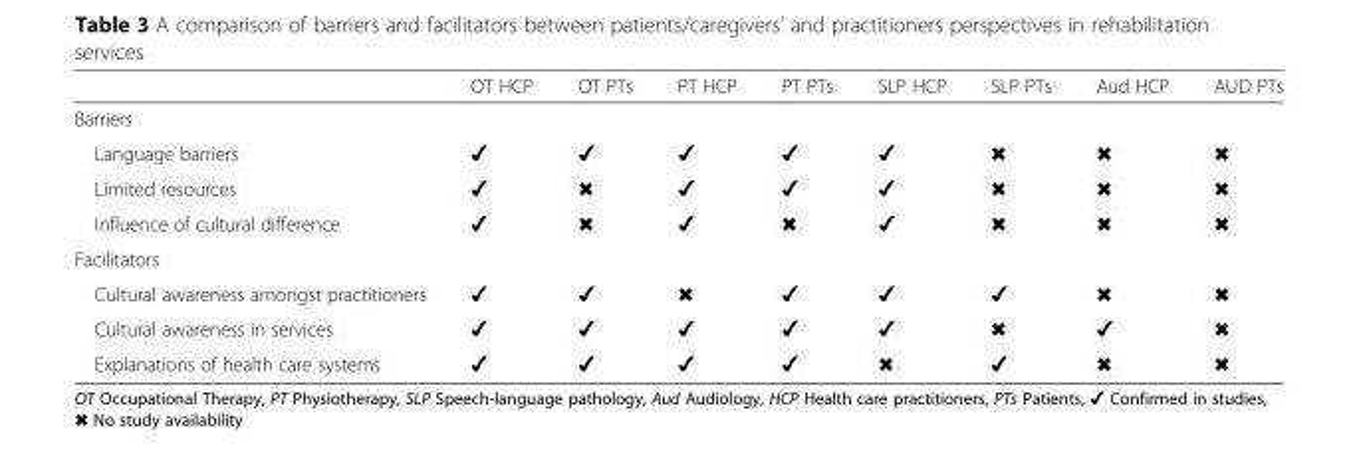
<table><thead><tr><td></td><td>OT HCP</td><td>OT PTs</td><td>PT HCP</td><td>PT PTs</td><td>SLP HCP</td><td>SLP PTs</td><td>Aud HCP</td><td>AUD PTs</td></tr></thead><tbody><tr><td colspan="9">Barriers</td></tr><tr><td>Language barriers</td><td>✔</td><td>✔</td><td>✔</td><td>✔</td><td>✔</td><td>✖</td><td>✖</td><td>✖</td></tr><tr><td>Limited resources</td><td>✔</td><td>✖</td><td>✔</td><td>✔</td><td>✔</td><td>✖</td><td>✖</td><td>✖</td></tr><tr><td>Influence of cultural difference</td><td>✔</td><td>✖</td><td>✔</td><td>✖</td><td>✔</td><td>✖</td><td>✖</td><td>✖</td></tr><tr><td colspan="9">Facilitators</td></tr><tr><td>Cultural awareness amongst practitioners</td><td>✔</td><td>✔</td><td>✖</td><td>✔</td><td>✔</td><td>✔</td><td>✖</td><td>✖</td></tr><tr><td>Cultural awareness in services</td><td>✔</td><td>✔</td><td>✔</td><td>✔</td><td>✔</td><td>✖</td><td>✔</td><td>✖</td></tr><tr><td>Explanations of health care systems</td><td>✔</td><td>✔</td><td>✔</td><td>✔</td><td>✖</td><td>✔</td><td>✖</td><td>✖</td></tr></tbody></table>